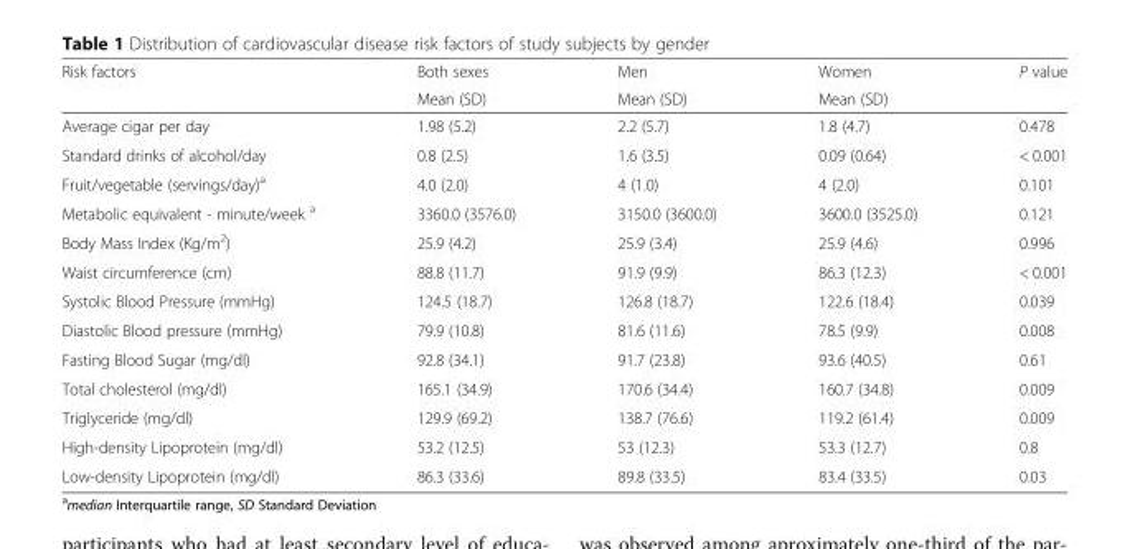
<table><thead><tr><td rowspan="2">Risk factors</td><td rowspan="2">Both sexes Mean (SD)</td><td rowspan="2">Men Mean (SD)</td><td rowspan="2">Women Mean (SD)</td><td rowspan="2">P value</td></tr><tr></tr></thead><tbody><tr><td>Average cigar per day</td><td>1.98 (5.2)</td><td>2.2 (5.7)</td><td>1.8 (4.7)</td><td>0.478</td></tr><tr><td>Standard drinks of alcohol/day</td><td>0.8 (2.5)</td><td>1.6 (3.5)</td><td>0.09 (0.64)</td><td>&lt; 0.001</td></tr><tr><td>Fruit/vegetable (servings/day)<sup>a</sup></td><td>4.0 (2.0)</td><td>4 (1.0)</td><td>4 (2.0)</td><td>0.101</td></tr><tr><td>Metabolic equivalent - minute/week <sup>a</sup></td><td>3360.0 (3576.0)</td><td>3150.0 (3600.0)</td><td>3600.0 (3525.0)</td><td>0.121</td></tr><tr><td>Body Mass Index (Kg/m<sup>2</sup>)</td><td>25.9 (4.2)</td><td>25.9 (3.4)</td><td>25.9 (4.6)</td><td>0.996</td></tr><tr><td>Waist circumference (cm)</td><td>88.8 (11.7)</td><td>91.9 (9.9)</td><td>86.3 (12.3)</td><td>&lt; 0.001</td></tr><tr><td>Systolic Blood Pressure (mmHg)</td><td>124.5 (18.7)</td><td>126.8 (18.7)</td><td>122.6 (18.4)</td><td>0.039</td></tr><tr><td>Diastolic Blood pressure (mmHg)</td><td>79.9 (10.8)</td><td>81.6 (11.6)</td><td>78.5 (9.9)</td><td>0.008</td></tr><tr><td>Fasting Blood Sugar (mg/dl)</td><td>92.8 (34.1)</td><td>91.7 (23.8)</td><td>93.6 (40.5)</td><td>0.61</td></tr><tr><td>Total cholesterol (mg/dl)</td><td>165.1 (34.9)</td><td>170.6 (34.4)</td><td>160.7 (34.8)</td><td>0.009</td></tr><tr><td>Triglyceride (mg/dl)</td><td>129.9 (69.2)</td><td>138.7 (76.6)</td><td>119.2 (61.4)</td><td>0.009</td></tr><tr><td>High-density Lipoprotein (mg/dl)</td><td>53.2 (12.5)</td><td>53 (12.3)</td><td>53.3 (12.7)</td><td>0.8</td></tr><tr><td>Low-density Lipoprotein (mg/dl)</td><td>86.3 (33.6)</td><td>89.8 (33.5)</td><td>83.4 (33.5)</td><td>0.03</td></tr></tbody></table>